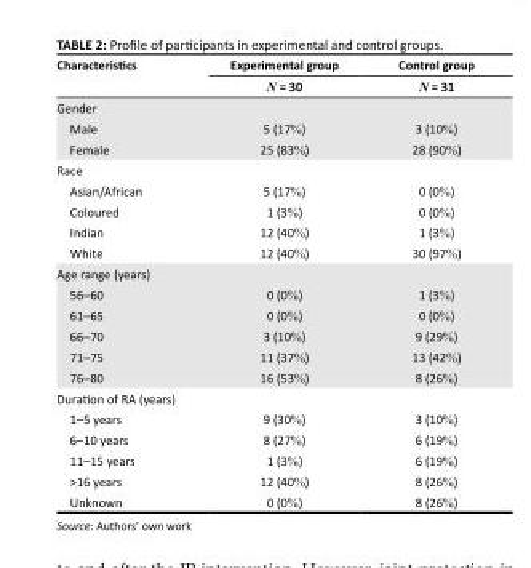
<table><thead><tr><td rowspan="2">Characteristics</td><td rowspan="2">Experimental group N = 30</td><td rowspan="2">Control group N = 31</td></tr><tr></tr></thead><tbody><tr><td colspan="3">Gender</td></tr><tr><td>Male</td><td>5 (17%)</td><td>3 (10%)</td></tr><tr><td>Female</td><td>25 (83%)</td><td>28 (90%)</td></tr><tr><td colspan="3">Race</td></tr><tr><td>Asian/African</td><td>5 (17%)</td><td>0 (0%)</td></tr><tr><td>Coloured</td><td>1 (3%)</td><td>0 (0%)</td></tr><tr><td>Indian</td><td>12 (40%)</td><td>1 (3%)</td></tr><tr><td>White</td><td>12 (40%)</td><td>30 (97%)</td></tr><tr><td colspan="3">Age range (years)</td></tr><tr><td>56–60</td><td>0 (0%)</td><td>1 (3%)</td></tr><tr><td>61–65</td><td>0 (0%)</td><td>0 (0%)</td></tr><tr><td>66–70</td><td>3 (10%)</td><td>9 (29%)</td></tr><tr><td>71–75</td><td>11 (37%)</td><td>13 (42%)</td></tr><tr><td>76–80</td><td>16 (53%)</td><td>8 (26%)</td></tr><tr><td colspan="3">Duration of RA (years)</td></tr><tr><td>1–5 years</td><td>9 (30%)</td><td>3 (10%)</td></tr><tr><td>6–10 years</td><td>8 (27%)</td><td>6 (19%)</td></tr><tr><td>11–15 years</td><td>1 (3%)</td><td>6 (19%)</td></tr><tr><td>&gt;16 years</td><td>12 (40%)</td><td>8 (26%)</td></tr><tr><td>Unknown</td><td>0 (0%)</td><td>8 (26%)</td></tr></tbody></table>